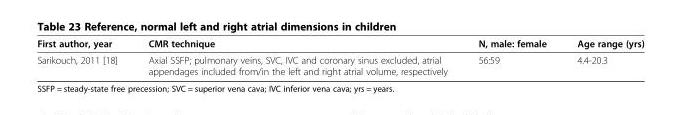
<table><thead><tr><td>First author, year</td><td>CMR technique</td><td>N, male: female</td><td>Age range (yrs)</td></tr></thead><tbody><tr><td>Sarikouch, 2011 [18]</td><td>Axial SSFP; pulmonary veins, SVC, IVC and coronary sinus excluded, atrial appendages included from/in the left and right atrial volume, respectively</td><td>56:59</td><td>4.4-20.3</td></tr></tbody></table>